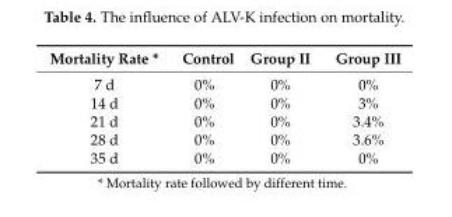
<table><thead><tr><td>Mortality Rate *</td><td>Control</td><td>Group II</td><td>Group III</td></tr></thead><tbody><tr><td>7 d</td><td>0%</td><td>0%</td><td>0%</td></tr><tr><td>14 d</td><td>0%</td><td>0%</td><td>3%</td></tr><tr><td>21 d</td><td>0%</td><td>0%</td><td>3.4%</td></tr><tr><td>28 d</td><td>0%</td><td>0%</td><td>3.6%</td></tr><tr><td>35 d</td><td>0%</td><td>0%</td><td>0%</td></tr></tbody></table>